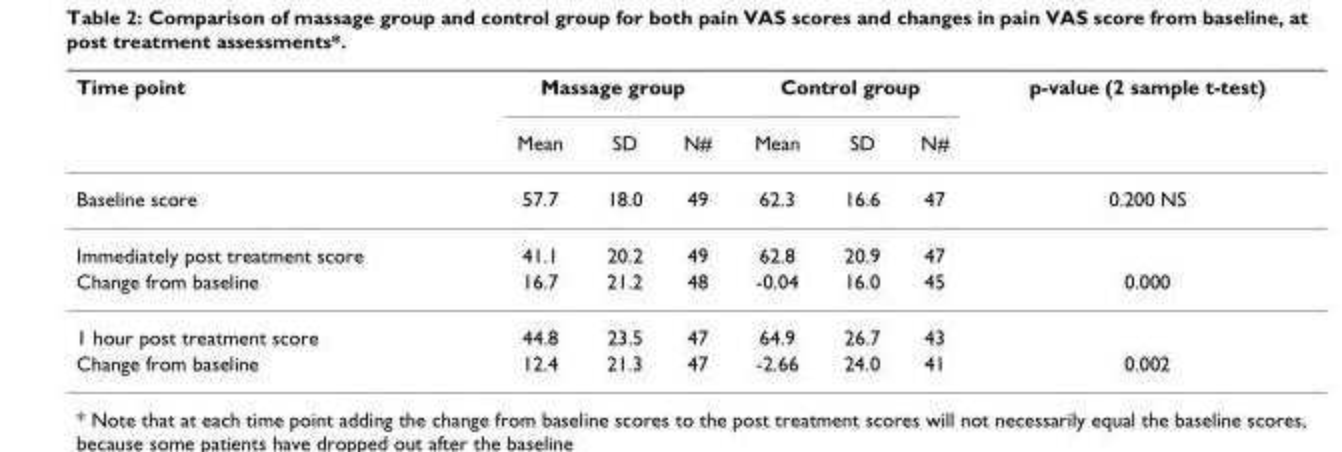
<table><thead><tr><td rowspan="2">Time point</td><td colspan="3">Massage group</td><td colspan="3">Control group</td><td rowspan="2">p-value (2 sample t-test)</td></tr><tr><td>Mean</td><td>SD</td><td>N#</td><td>Mean</td><td>SD</td><td>N#</td></tr></thead><tbody><tr><td>Baseline score</td><td>57.7</td><td>18.0</td><td>49</td><td>62.3</td><td>16.6</td><td>47</td><td>0.200 NS</td></tr><tr><td>Immediately post treatment score</td><td>41.1</td><td>20.2</td><td>49</td><td>62.8</td><td>20.9</td><td>47</td><td></td></tr><tr><td>Change from baseline</td><td>16.7</td><td>21.2</td><td>48</td><td>-0.04</td><td>16.0</td><td>45</td><td>0.000</td></tr><tr><td>1 hour post treatment score</td><td>44.8</td><td>23.5</td><td>47</td><td>64.9</td><td>26.7</td><td>43</td><td></td></tr><tr><td>Change from baseline</td><td>12.4</td><td>21.3</td><td>47</td><td>-2.66</td><td>24.0</td><td>41</td><td>0.002</td></tr></tbody></table>